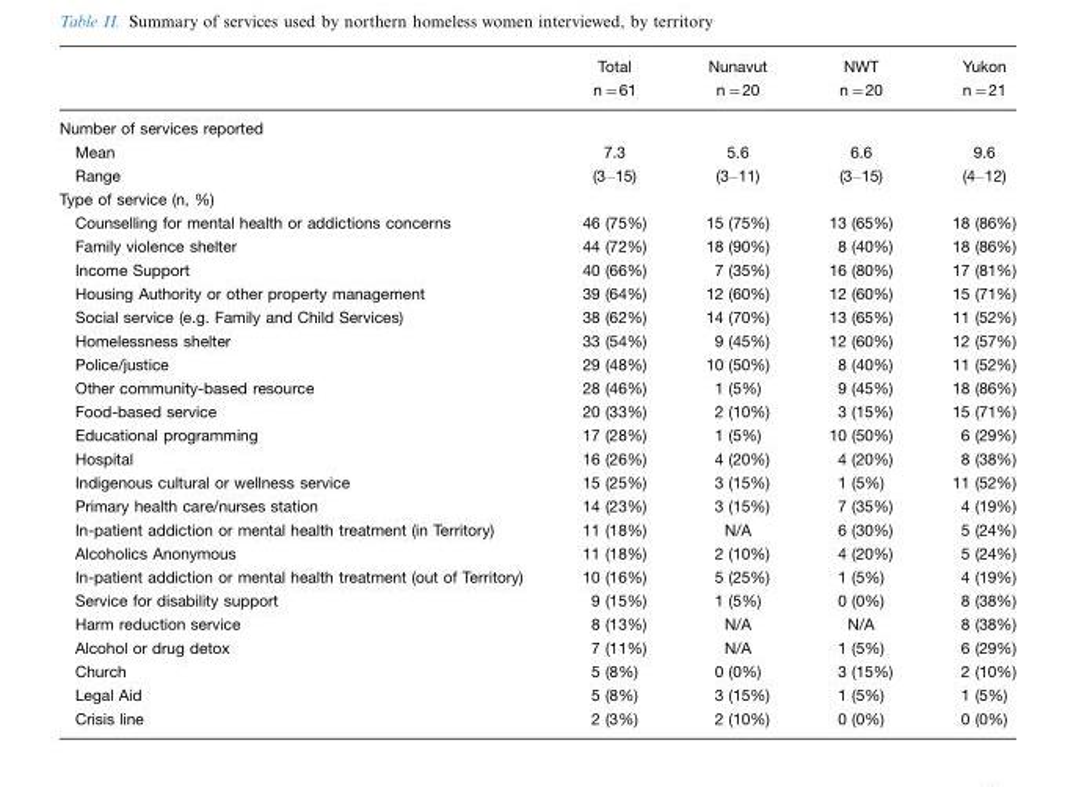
<table><thead><tr><td rowspan="2"></td><td rowspan="2">Total n=61</td><td rowspan="2">Nunavut n=20</td><td rowspan="2">NWT n=20</td><td rowspan="2">Yukon n=21</td></tr><tr></tr></thead><tbody><tr><td colspan="5">Number of services reported</td></tr><tr><td>Mean</td><td>7.3</td><td>5.6</td><td>6.6</td><td>9.6</td></tr><tr><td>Range</td><td>(3–15)</td><td>(3–11)</td><td>(3–15)</td><td>(4–12)</td></tr><tr><td colspan="5">Type of service (n, %)</td></tr><tr><td>Counselling for mental health or addictions concerns</td><td>46 (75%)</td><td>15 (75%)</td><td>13 (65%)</td><td>18 (86%)</td></tr><tr><td>Family violence shelter</td><td>44 (72%)</td><td>18 (90%)</td><td>8 (40%)</td><td>18 (86%)</td></tr><tr><td>Income Support</td><td>40 (66%)</td><td>7 (35%)</td><td>16 (80%)</td><td>17 (81%)</td></tr><tr><td>Housing Authority or other property management</td><td>39 (64%)</td><td>12 (60%)</td><td>12 (60%)</td><td>15 (71%)</td></tr><tr><td>Social service (e.g. Family and Child Services)</td><td>38 (62%)</td><td>14 (70%)</td><td>13 (65%)</td><td>11 (52%)</td></tr><tr><td>Homelessness shelter</td><td>33 (54%)</td><td>9 (45%)</td><td>12 (60%)</td><td>12 (57%)</td></tr><tr><td>Police/justice</td><td>29 (48%)</td><td>10 (50%)</td><td>8 (40%)</td><td>11 (52%)</td></tr><tr><td>Other community-based resource</td><td>28 (46%)</td><td>1 (5%)</td><td>9 (45%)</td><td>18 (86%)</td></tr><tr><td>Food-based service</td><td>20 (33%)</td><td>2 (10%)</td><td>3 (15%)</td><td>15 (71%)</td></tr><tr><td>Educational programming</td><td>17 (28%)</td><td>1 (5%)</td><td>10 (50%)</td><td>6 (29%)</td></tr><tr><td>Hospital</td><td>16 (26%)</td><td>4 (20%)</td><td>4 (20%)</td><td>8 (38%)</td></tr><tr><td>Indigenous cultural or wellness service</td><td>15 (25%)</td><td>3 (15%)</td><td>1 (5%)</td><td>11 (52%)</td></tr><tr><td>Primary health care/nurses station</td><td>14 (23%)</td><td>3 (15%)</td><td>7 (35%)</td><td>4 (19%)</td></tr><tr><td>In-patient addiction or mental health treatment (in Territory)</td><td>11 (18%)</td><td>N/A</td><td>6 (30%)</td><td>5 (24%)</td></tr><tr><td>Alcoholics Anonymous</td><td>11 (18%)</td><td>2 (10%)</td><td>4 (20%)</td><td>5 (24%)</td></tr><tr><td>In-patient addiction or mental health treatment (out of Territory)</td><td>10 (16%)</td><td>5 (25%)</td><td>1 (5%)</td><td>4 (19%)</td></tr><tr><td>Service for disability support</td><td>9 (15%)</td><td>1 (5%)</td><td>0 (0%)</td><td>8 (38%)</td></tr><tr><td>Harm reduction service</td><td>8 (13%)</td><td>N/A</td><td>N/A</td><td>8 (38%)</td></tr><tr><td>Alcohol or drug detox</td><td>7 (11%)</td><td>N/A</td><td>1 (5%)</td><td>6 (29%)</td></tr><tr><td>Church</td><td>5 (8%)</td><td>0 (0%)</td><td>3 (15%)</td><td>2 (10%)</td></tr><tr><td>Legal Aid</td><td>5 (8%)</td><td>3 (15%)</td><td>1 (5%)</td><td>1 (5%)</td></tr><tr><td>Crisis line</td><td>2 (3%)</td><td>2 (10%)</td><td>0 (0%)</td><td>0 (0%)</td></tr></tbody></table>